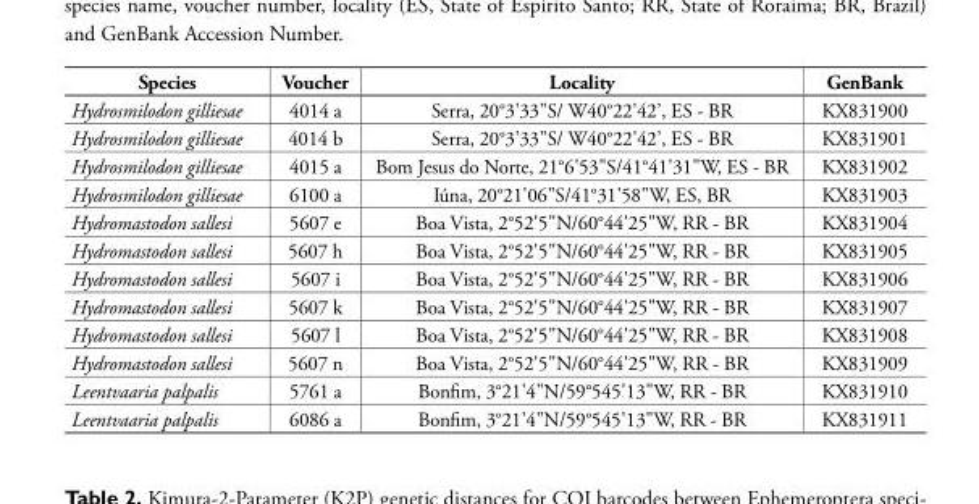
<table><thead><tr><td>Species</td><td>Voucher</td><td>Locality</td><td>GenBank</td></tr></thead><tbody><tr><td>Hydrosmilodon gilliesae</td><td>4014 a</td><td>Serra, 20°3&#x27;33&quot;S/ W40°22&#x27;42’, ES - BR</td><td>KX831900</td></tr><tr><td>Hydrosmilodon gilliesae</td><td>4014 b</td><td>Serra, 20°3&#x27;33&quot;S/ W40°22&#x27;42’, ES - BR</td><td>KX831901</td></tr><tr><td>Hydrosmilodon gilliesae</td><td>4015 a</td><td>Bom Jesus do Norte, 21°6&#x27;53&quot;S/41°41&#x27;31&quot;W, ES - BR</td><td>KX831902</td></tr><tr><td>Hydrosmilodon gilliesae</td><td>6100 a</td><td>Iúna, 20°21&#x27;06&quot;S/41°31&#x27;58&quot;W, ES, BR</td><td>KX831903</td></tr><tr><td>Hydromastodon sallesi</td><td>5607 e</td><td>Boa Vista, 2°52&#x27;5&quot;N/60°44&#x27;25&quot;W, RR - BR</td><td>KX831904</td></tr><tr><td>Hydromastodon sallesi</td><td>5607 h</td><td>Boa Vista, 2°52&#x27;5&quot;N/60°44&#x27;25&quot;W, RR - BR</td><td>KX831905</td></tr><tr><td>Hydromastodon sallesi</td><td>5607 i</td><td>Boa Vista, 2°52&#x27;5&quot;N/60°44&#x27;25&quot;W, RR - BR</td><td>KX831906</td></tr><tr><td>Hydromastodon sallesi</td><td>5607 k</td><td>Boa Vista, 2°52&#x27;5&quot;N/60°44&#x27;25&quot;W, RR - BR</td><td>KX831907</td></tr><tr><td>Hydromastodon sallesi</td><td>5607 l</td><td>Boa Vista, 2°52&#x27;5&quot;N/60°44&#x27;25&quot;W, RR - BR</td><td>KX831908</td></tr><tr><td>Hydromastodon sallesi</td><td>5607 n</td><td>Boa Vista, 2°52&#x27;5&quot;N/60°44&#x27;25&quot;W, RR - BR</td><td>KX831909</td></tr><tr><td>Leentvaaria palpalis</td><td>5761 a</td><td>Bonfim, 3°21&#x27;4&quot;N/59°545&#x27;13&quot;W, RR - BR</td><td>KX831910</td></tr><tr><td>Leentvaaria palpalis</td><td>6086 a</td><td>Bonfim, 3°21&#x27;4&quot;N/59°545&#x27;13&quot;W, RR - BR</td><td>KX831911</td></tr></tbody></table>